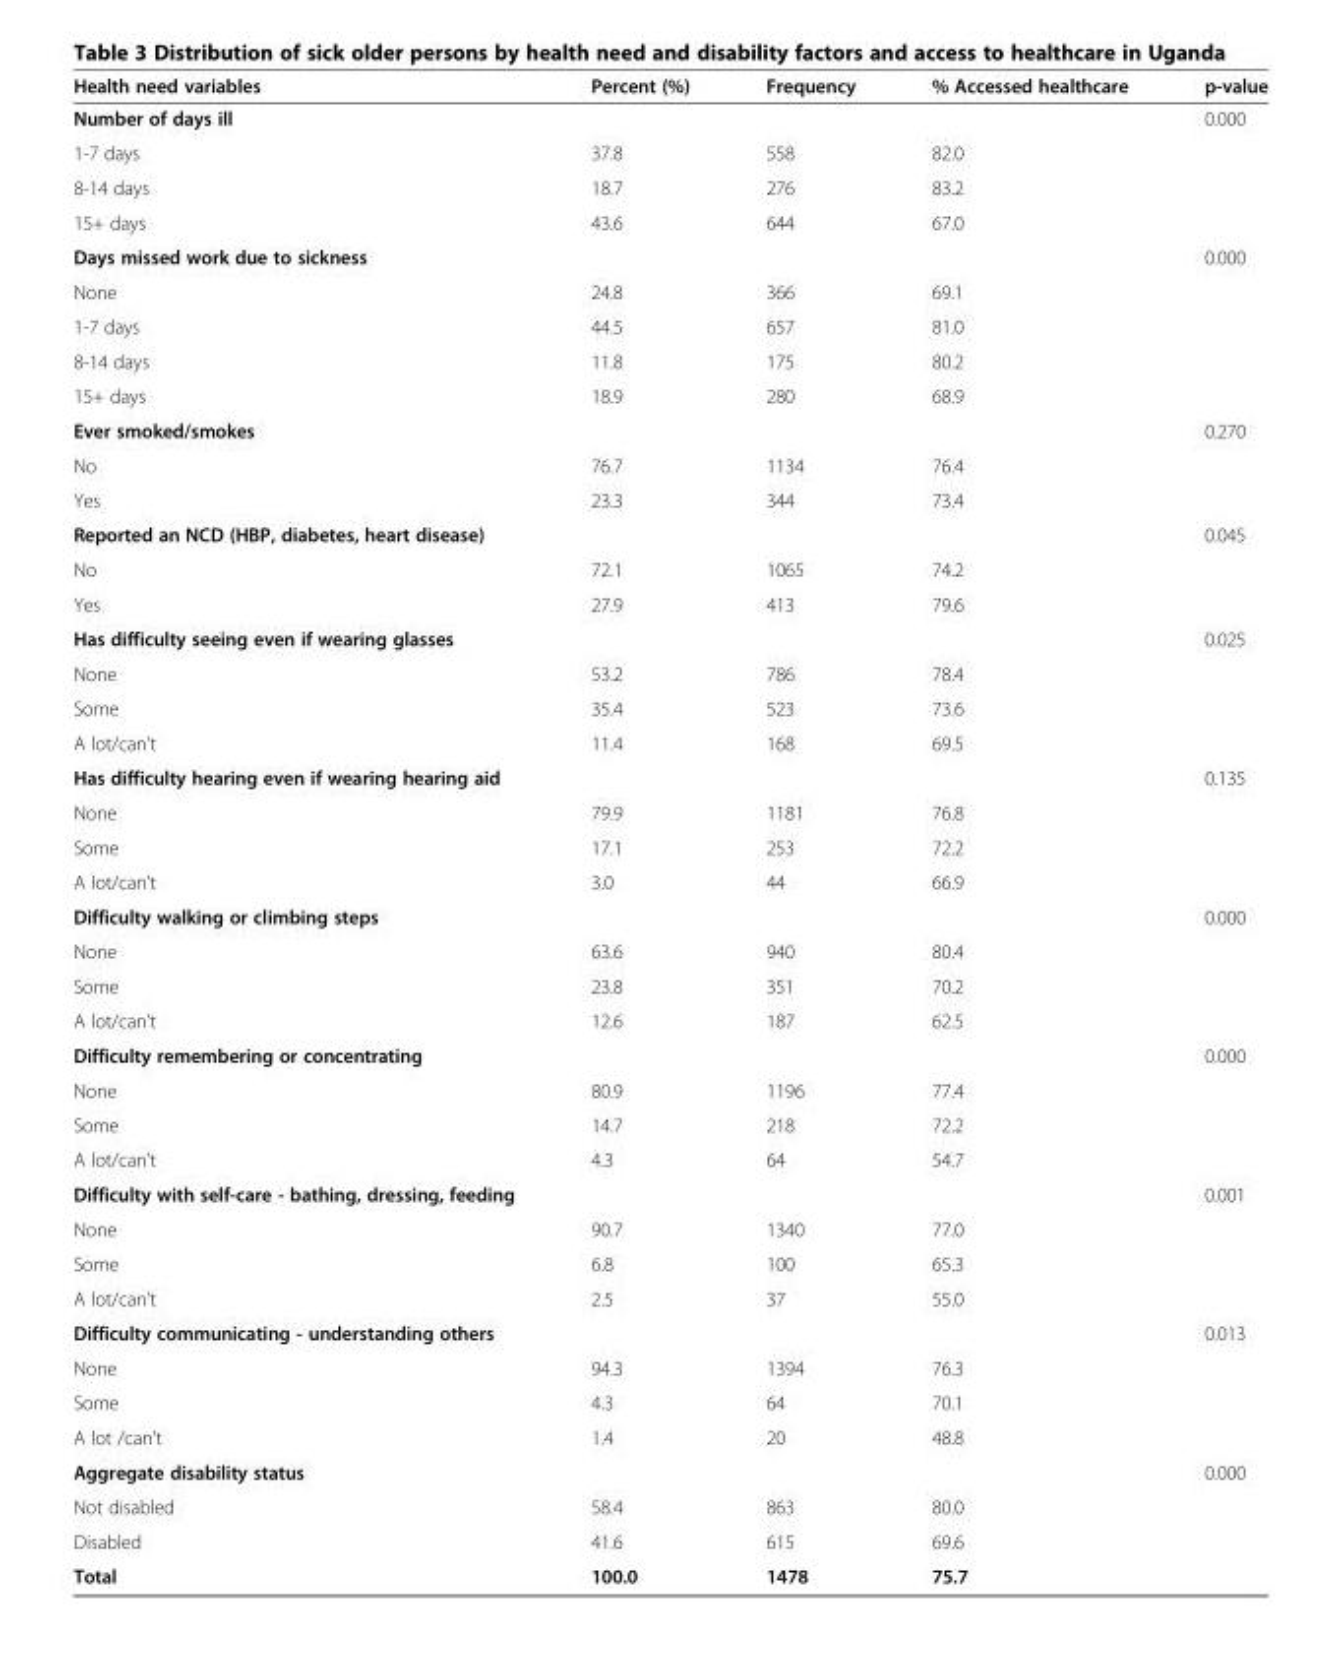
<table><thead><tr><td>Health need variables</td><td>Percent (%)</td><td>Frequency</td><td>% Accessed healthcare</td><td>p-value</td></tr></thead><tbody><tr><td>Number of days ill</td><td></td><td></td><td></td><td>0.000</td></tr><tr><td>1-7 days</td><td>37.8</td><td>558</td><td>82.0</td><td></td></tr><tr><td>8-14 days</td><td>18.7</td><td>276</td><td>83.2</td><td></td></tr><tr><td>15+ days</td><td>43.6</td><td>644</td><td>67.0</td><td></td></tr><tr><td>Days missed work due to sickness</td><td></td><td></td><td></td><td>0.000</td></tr><tr><td>None</td><td>24.8</td><td>366</td><td>69.1</td><td></td></tr><tr><td>1-7 days</td><td>44.5</td><td>657</td><td>81.0</td><td></td></tr><tr><td>8-14 days</td><td>11.8</td><td>175</td><td>80.2</td><td></td></tr><tr><td>15+ days</td><td>18.9</td><td>280</td><td>68.9</td><td></td></tr><tr><td>Ever smoked/smokes</td><td></td><td></td><td></td><td>0.270</td></tr><tr><td>No</td><td>76.7</td><td>1134</td><td>76.4</td><td></td></tr><tr><td>Yes</td><td>23.3</td><td>344</td><td>73.4</td><td></td></tr><tr><td>Reported an NCD (HBP, diabetes, heart disease)</td><td></td><td></td><td></td><td>0.045</td></tr><tr><td>No</td><td>72.1</td><td>1065</td><td>74.2</td><td></td></tr><tr><td>Yes</td><td>27.9</td><td>413</td><td>79.6</td><td></td></tr><tr><td>Has difficulty seeing even if wearing glasses</td><td></td><td></td><td></td><td>0.025</td></tr><tr><td>None</td><td>53.2</td><td>786</td><td>78.4</td><td></td></tr><tr><td>Some</td><td>35.4</td><td>523</td><td>73.6</td><td></td></tr><tr><td>A lot/can’t</td><td>11.4</td><td>168</td><td>69.5</td><td></td></tr><tr><td>Has difficulty hearing even if wearing hearing aid</td><td></td><td></td><td></td><td>0.135</td></tr><tr><td>None</td><td>79.9</td><td>1181</td><td>76.8</td><td></td></tr><tr><td>Some</td><td>17.1</td><td>253</td><td>72.2</td><td></td></tr><tr><td>A lot/can’t</td><td>3.0</td><td>44</td><td>66.9</td><td></td></tr><tr><td>Difficulty walking or climbing steps</td><td></td><td></td><td></td><td>0.000</td></tr><tr><td>None</td><td>63.6</td><td>940</td><td>80.4</td><td></td></tr><tr><td>Some</td><td>23.8</td><td>351</td><td>70.2</td><td></td></tr><tr><td>A lot/can’t</td><td>12.6</td><td>187</td><td>62.5</td><td></td></tr><tr><td>Difficulty remembering or concentrating</td><td></td><td></td><td></td><td>0.000</td></tr><tr><td>None</td><td>80.9</td><td>1196</td><td>77.4</td><td></td></tr><tr><td>Some</td><td>14.7</td><td>218</td><td>72.2</td><td></td></tr><tr><td>A lot/can’t</td><td>4.3</td><td>64</td><td>54.7</td><td></td></tr><tr><td>Difficulty with self-care - bathing, dressing, feeding</td><td></td><td></td><td></td><td>0.001</td></tr><tr><td>None</td><td>90.7</td><td>1340</td><td>77.0</td><td></td></tr><tr><td>Some</td><td>6.8</td><td>100</td><td>65.3</td><td></td></tr><tr><td>A lot/can’t</td><td>2.5</td><td>37</td><td>55.0</td><td></td></tr><tr><td>Difficulty communicating - understanding others</td><td></td><td></td><td></td><td>0.013</td></tr><tr><td>None</td><td>94.3</td><td>1394</td><td>76.3</td><td></td></tr><tr><td>Some</td><td>4.3</td><td>64</td><td>70.1</td><td></td></tr><tr><td>A lot /can’t</td><td>1.4</td><td>20</td><td>48.8</td><td></td></tr><tr><td>Aggregate disability status</td><td></td><td></td><td></td><td>0.000</td></tr><tr><td>Not disabled</td><td>58.4</td><td>863</td><td>80.0</td><td></td></tr><tr><td>Disabled</td><td>41.6</td><td>615</td><td>69.6</td><td></td></tr><tr><td>Total</td><td>100.0</td><td>1478</td><td>75.7</td><td></td></tr></tbody></table>